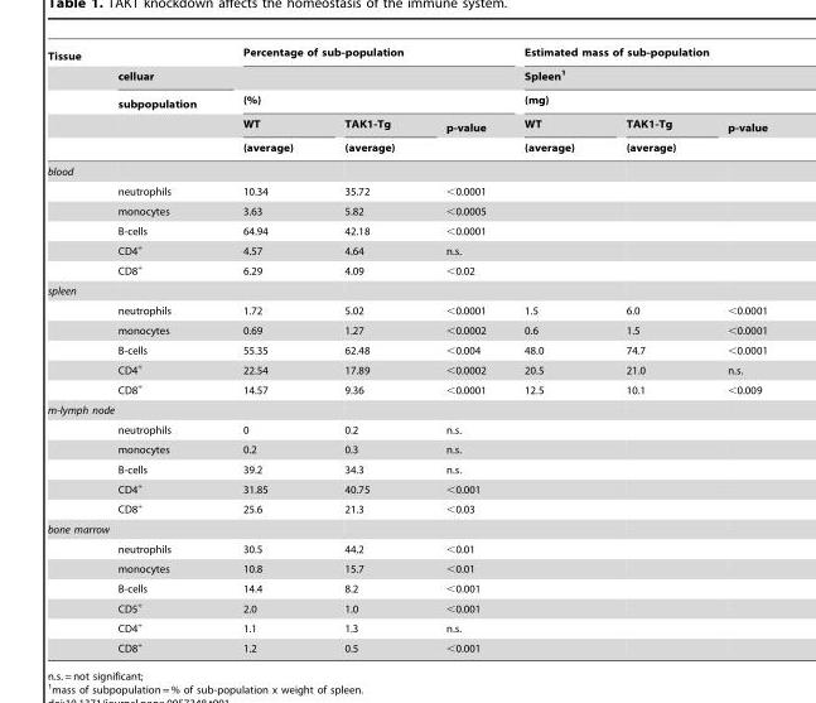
<table><thead><tr><td rowspan="5">Tissue</td><td rowspan="5">celluar subpopulation</td><td colspan="3">Percentage of sub-population</td><td rowspan="3" colspan="3">Estimated mass of sub-population Spleen<sup>1</sup> (mg)</td></tr><tr><td></td><td></td><td></td></tr><tr><td colspan="3">(%)</td></tr><tr><td rowspan="2">WT (average)</td><td rowspan="2">TAK1-Tg (average)</td><td rowspan="2">p-value</td><td rowspan="2">WT (average)</td><td rowspan="2">TAK1-Tg (average)</td><td rowspan="2">p-value</td></tr><tr></tr></thead><tbody><tr><td colspan="8">blood</td></tr><tr><td></td><td>neutrophils</td><td>10.34</td><td>35.72</td><td>&lt;0.0001</td><td></td><td></td><td></td></tr><tr><td></td><td>monocytes</td><td>3.63</td><td>5.82</td><td>&lt;0.0005</td><td></td><td></td><td></td></tr><tr><td></td><td>B-cells</td><td>64.94</td><td>42.18</td><td>&lt;0.0001</td><td></td><td></td><td></td></tr><tr><td></td><td>CD4<sup>+</sup></td><td>4.57</td><td>4.64</td><td>n.s.</td><td></td><td></td><td></td></tr><tr><td></td><td>CD8<sup>+</sup></td><td>6.29</td><td>4.09</td><td>&lt;0.02</td><td></td><td></td><td></td></tr><tr><td colspan="8">spleen</td></tr><tr><td></td><td>neutrophils</td><td>1.72</td><td>5.02</td><td>&lt;0.0001</td><td>1.5</td><td>6.0</td><td>&lt;0.0001</td></tr><tr><td></td><td>monocytes</td><td>0.69</td><td>1.27</td><td>&lt;0.0002</td><td>0.6</td><td>1.5</td><td>&lt;0.0001</td></tr><tr><td></td><td>B-cells</td><td>55.35</td><td>62.48</td><td>&lt;0.004</td><td>48.0</td><td>74.7</td><td>&lt;0.0001</td></tr><tr><td></td><td>CD4<sup>+</sup></td><td>22.54</td><td>17.89</td><td>&lt;0.0002</td><td>20.5</td><td>21.0</td><td>n.s.</td></tr><tr><td></td><td>CD8<sup>+</sup></td><td>14.57</td><td>9.36</td><td>&lt;0.0001</td><td>12.5</td><td>10.1</td><td>&lt;0.009</td></tr><tr><td colspan="8">m-lymph node</td></tr><tr><td></td><td>neutrophils</td><td>0</td><td>0.2</td><td>n.s.</td><td></td><td></td><td></td></tr><tr><td></td><td>monocytes</td><td>0.2</td><td>0.3</td><td>n.s.</td><td></td><td></td><td></td></tr><tr><td></td><td>B-cells</td><td>39.2</td><td>34.3</td><td>n.s.</td><td></td><td></td><td></td></tr><tr><td></td><td>CD4<sup>+</sup></td><td>31.85</td><td>40.75</td><td>&lt;0.001</td><td></td><td></td><td></td></tr><tr><td></td><td>CD8<sup>+</sup></td><td>25.6</td><td>21.3</td><td>&lt;0.03</td><td></td><td></td><td></td></tr><tr><td colspan="8">bone marrow</td></tr><tr><td></td><td>neutrophils</td><td>30.5</td><td>44.2</td><td>&lt;0.01</td><td></td><td></td><td></td></tr><tr><td></td><td>monocytes</td><td>10.8</td><td>15.7</td><td>&lt;0.01</td><td></td><td></td><td></td></tr><tr><td></td><td>B-cells</td><td>14.4</td><td>8.2</td><td>&lt;0.001</td><td></td><td></td><td></td></tr><tr><td></td><td>CD5<sup>+</sup></td><td>2.0</td><td>1.0</td><td>&lt;0.001</td><td></td><td></td><td></td></tr><tr><td></td><td>CD4<sup>+</sup></td><td>1.1</td><td>1.3</td><td>n.s.</td><td></td><td></td><td></td></tr><tr><td></td><td>CD8<sup>+</sup></td><td>1.2</td><td>0.5</td><td>&lt;0.001</td><td></td><td></td><td></td></tr></tbody></table>